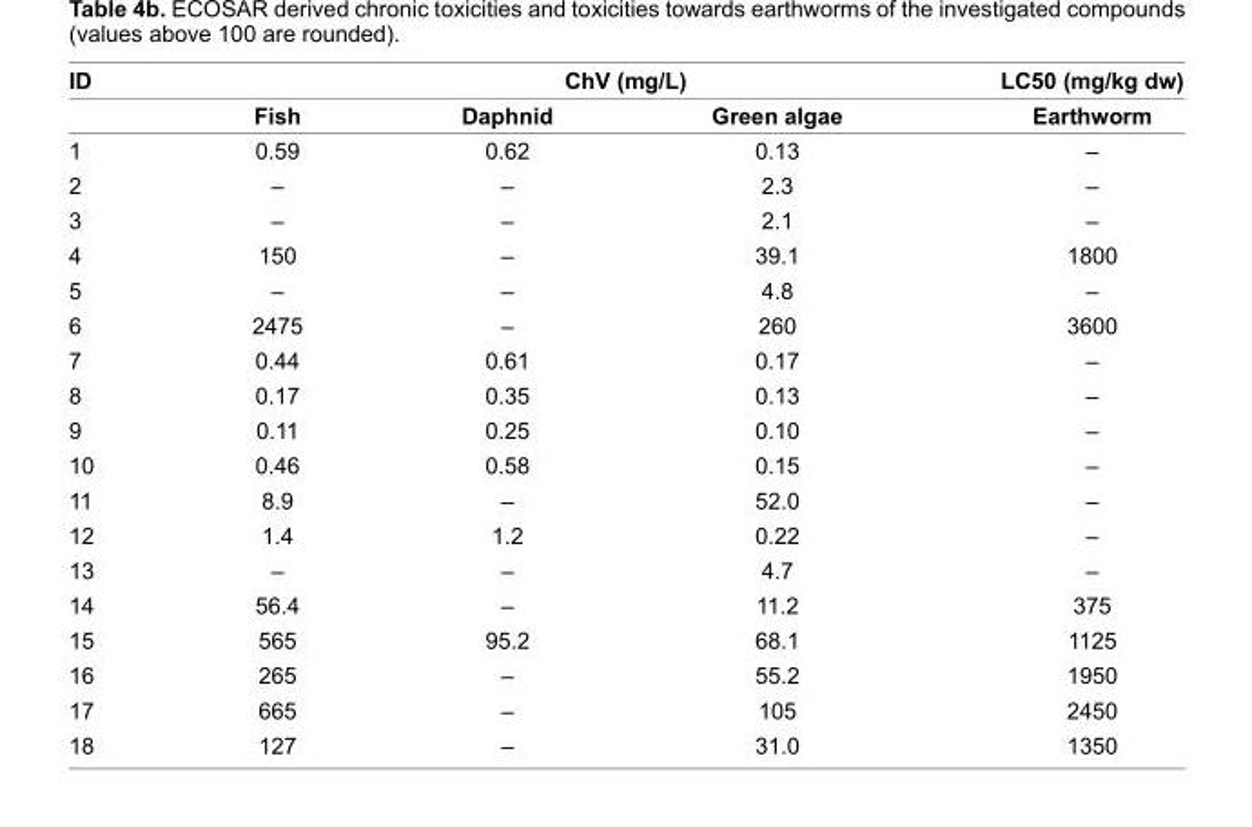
<table><thead><tr><td rowspan="2">ID</td><td rowspan="2">Fish</td><td colspan="2">ChV (mg/L)</td><td rowspan="2">LC50 (mg/kg dw) Earthworm</td></tr><tr><td>Daphnid</td><td>Green algae</td></tr></thead><tbody><tr><td>1</td><td>0.59</td><td>0.62</td><td>0.13</td><td>–</td></tr><tr><td>2</td><td>–</td><td>–</td><td>2.3</td><td>–</td></tr><tr><td>3</td><td>–</td><td>–</td><td>2.1</td><td>–</td></tr><tr><td>4</td><td>150</td><td>–</td><td>39.1</td><td>1800</td></tr><tr><td>5</td><td>–</td><td>–</td><td>4.8</td><td>–</td></tr><tr><td>6</td><td>2475</td><td>–</td><td>260</td><td>3600</td></tr><tr><td>7</td><td>0.44</td><td>0.61</td><td>0.17</td><td>–</td></tr><tr><td>8</td><td>0.17</td><td>0.35</td><td>0.13</td><td>–</td></tr><tr><td>9</td><td>0.11</td><td>0.25</td><td>0.10</td><td>–</td></tr><tr><td>10</td><td>0.46</td><td>0.58</td><td>0.15</td><td>–</td></tr><tr><td>11</td><td>8.9</td><td>–</td><td>52.0</td><td>–</td></tr><tr><td>12</td><td>1.4</td><td>1.2</td><td>0.22</td><td>–</td></tr><tr><td>13</td><td>–</td><td>–</td><td>4.7</td><td>–</td></tr><tr><td>14</td><td>56.4</td><td>–</td><td>11.2</td><td>375</td></tr><tr><td>15</td><td>565</td><td>95.2</td><td>68.1</td><td>1125</td></tr><tr><td>16</td><td>265</td><td>–</td><td>55.2</td><td>1950</td></tr><tr><td>17</td><td>665</td><td>–</td><td>105</td><td>2450</td></tr><tr><td>18</td><td>127</td><td>–</td><td>31.0</td><td>1350</td></tr></tbody></table>